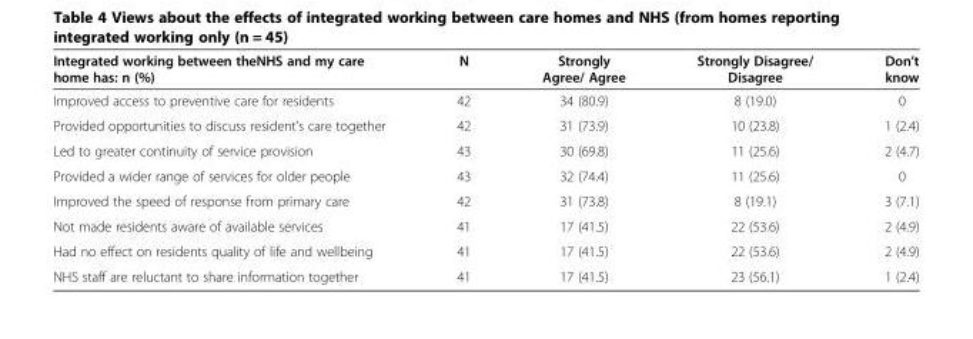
<table><thead><tr><td>Integrated working between theNHS and my care home has: n (%)</td><td>N</td><td>Strongly Agree/ Agree</td><td>Strongly Disagree/ Disagree</td><td>Don’t know</td></tr></thead><tbody><tr><td>Improved access to preventive care for residents</td><td>42</td><td>34 (80.9)</td><td>8 (19.0)</td><td>0</td></tr><tr><td>Provided opportunities to discuss resident’s care together</td><td>42</td><td>31 (73.9)</td><td>10 (23.8)</td><td>1 (2.4)</td></tr><tr><td>Led to greater continuity of service provision</td><td>43</td><td>30 (69.8)</td><td>11 (25.6)</td><td>2 (4.7)</td></tr><tr><td>Provided a wider range of services for older people</td><td>43</td><td>32 (74.4)</td><td>11 (25.6)</td><td>0</td></tr><tr><td>Improved the speed of response from primary care</td><td>42</td><td>31 (73.8)</td><td>8 (19.1)</td><td>3 (7.1)</td></tr><tr><td>Not made residents aware of available services</td><td>41</td><td>17 (41.5)</td><td>22 (53.6)</td><td>2 (4.9)</td></tr><tr><td>Had no effect on residents quality of life and wellbeing</td><td>41</td><td>17 (41.5)</td><td>22 (53.6)</td><td>2 (4.9)</td></tr><tr><td>NHS staff are reluctant to share information together</td><td>41</td><td>17 (41.5)</td><td>23 (56.1)</td><td>1 (2.4)</td></tr></tbody></table>